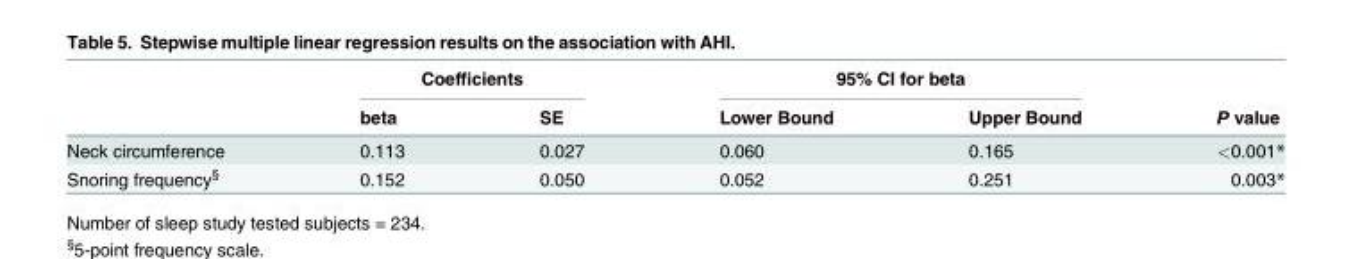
<table><thead><tr><td rowspan="2"></td><td colspan="2">Coefficients</td><td colspan="2">95% CI for beta</td><td rowspan="2">P value</td></tr><tr><td>beta</td><td>SE</td><td>Lower Bound</td><td>Upper Bound</td></tr></thead><tbody><tr><td>Neck circumference</td><td>0.113</td><td>0.027</td><td>0.060</td><td>0.165</td><td>&lt;0.001*</td></tr><tr><td>Snoring frequency<sup>§</sup></td><td>0.152</td><td>0.050</td><td>0.052</td><td>0.251</td><td>0.003*</td></tr></tbody></table>